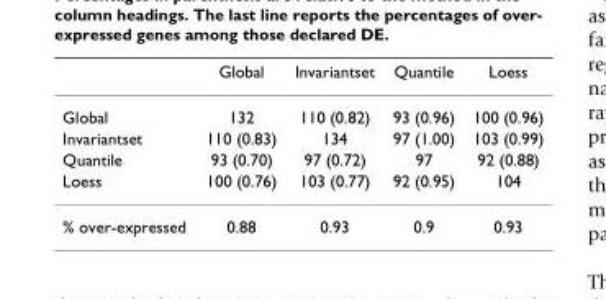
<table><thead><tr><td></td><td>Global</td><td>Invariantset</td><td>Quantile</td><td>Loess</td></tr></thead><tbody><tr><td>Global</td><td>132</td><td>110 (0.82)</td><td>93 (0.96)</td><td>100 (0.96)</td></tr><tr><td>Invariantset</td><td>110 (0.83)</td><td>134</td><td>97 (1.00)</td><td>103 (0.99)</td></tr><tr><td>Quantile</td><td>93 (0.70)</td><td>97 (0.72)</td><td>97</td><td>92 (0.88)</td></tr><tr><td>Loess</td><td>100 (0.76)</td><td>103 (0.77)</td><td>92 (0.95)</td><td>104</td></tr><tr><td>% over-expressed</td><td>0.88</td><td>0.93</td><td>0.9</td><td>0.93</td></tr></tbody></table>